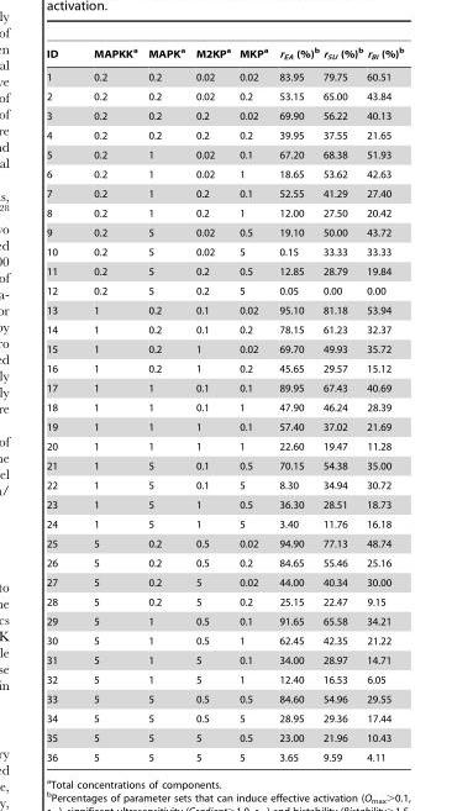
<table><thead><tr><td>ID</td><td>MAPKK<sup>a</sup></td><td>MAPK<sup>a</sup></td><td>M2KP<sup>a</sup></td><td>MKP<sup>a</sup></td><td>r<sub>EA</sub> (%)<sup>b</sup></td><td>r<sub>SU</sub> (%)<sup>b</sup></td><td>r<sub>BI</sub> (%)<sup>b</sup></td></tr></thead><tbody><tr><td>1</td><td>0.2</td><td>0.2</td><td>0.02</td><td>0.02</td><td>83.95</td><td>79.75</td><td>60.51</td></tr><tr><td>2</td><td>0.2</td><td>0.2</td><td>0.02</td><td>0.2</td><td>53.15</td><td>65.00</td><td>43.84</td></tr><tr><td>3</td><td>0.2</td><td>0.2</td><td>0.2</td><td>0.02</td><td>69.90</td><td>56.22</td><td>40.13</td></tr><tr><td>4</td><td>0.2</td><td>0.2</td><td>0.2</td><td>0.2</td><td>39.95</td><td>37.55</td><td>21.65</td></tr><tr><td>5</td><td>0.2</td><td>1</td><td>0.02</td><td>0.1</td><td>67.20</td><td>68.38</td><td>51.93</td></tr><tr><td>6</td><td>0.2</td><td>1</td><td>0.02</td><td>1</td><td>18.65</td><td>53.62</td><td>42.63</td></tr><tr><td>7</td><td>0.2</td><td>1</td><td>0.2</td><td>0.1</td><td>52.55</td><td>41.29</td><td>27.40</td></tr><tr><td>8</td><td>0.2</td><td>1</td><td>0.2</td><td>1</td><td>12.00</td><td>27.50</td><td>20.42</td></tr><tr><td>9</td><td>0.2</td><td>5</td><td>0.02</td><td>0.5</td><td>19.10</td><td>50.00</td><td>43.72</td></tr><tr><td>10</td><td>0.2</td><td>5</td><td>0.02</td><td>5</td><td>0.15</td><td>33.33</td><td>33.33</td></tr><tr><td>11</td><td>0.2</td><td>5</td><td>0.2</td><td>0.5</td><td>12.85</td><td>28.79</td><td>19.84</td></tr><tr><td>12</td><td>0.2</td><td>5</td><td>0.2</td><td>5</td><td>0.05</td><td>0.00</td><td>0.00</td></tr><tr><td>13</td><td>1</td><td>0.2</td><td>0.1</td><td>0.02</td><td>95.10</td><td>81.18</td><td>53.94</td></tr><tr><td>14</td><td>1</td><td>0.2</td><td>0.1</td><td>0.2</td><td>78.15</td><td>61.23</td><td>32.37</td></tr><tr><td>15</td><td>1</td><td>0.2</td><td>1</td><td>0.02</td><td>69.70</td><td>49.93</td><td>35.72</td></tr><tr><td>16</td><td>1</td><td>0.2</td><td>1</td><td>0.2</td><td>45.65</td><td>29.57</td><td>15.12</td></tr><tr><td>17</td><td>1</td><td>1</td><td>0.1</td><td>0.1</td><td>89.95</td><td>67.43</td><td>40.69</td></tr><tr><td>18</td><td>1</td><td>1</td><td>0.1</td><td>1</td><td>47.90</td><td>46.24</td><td>28.39</td></tr><tr><td>19</td><td>1</td><td>1</td><td>1</td><td>0.1</td><td>57.40</td><td>37.02</td><td>21.69</td></tr><tr><td>20</td><td>1</td><td>1</td><td>1</td><td>1</td><td>22.60</td><td>19.47</td><td>11.28</td></tr><tr><td>21</td><td>1</td><td>5</td><td>0.1</td><td>0.5</td><td>70.15</td><td>54.38</td><td>35.00</td></tr><tr><td>22</td><td>1</td><td>5</td><td>0.1</td><td>5</td><td>8.30</td><td>34.94</td><td>30.72</td></tr><tr><td>23</td><td>1</td><td>5</td><td>1</td><td>0.5</td><td>36.30</td><td>28.51</td><td>18.73</td></tr><tr><td>24</td><td>1</td><td>5</td><td>1</td><td>5</td><td>3.40</td><td>11.76</td><td>16.18</td></tr><tr><td>25</td><td>5</td><td>0.2</td><td>0.5</td><td>0.02</td><td>94.90</td><td>77.13</td><td>48.74</td></tr><tr><td>26</td><td>5</td><td>0.2</td><td>0.5</td><td>0.2</td><td>84.65</td><td>55.46</td><td>25.16</td></tr><tr><td>27</td><td>5</td><td>0.2</td><td>5</td><td>0.02</td><td>44.00</td><td>40.34</td><td>30.00</td></tr><tr><td>28</td><td>5</td><td>0.2</td><td>5</td><td>0.2</td><td>25.15</td><td>22.47</td><td>9.15</td></tr><tr><td>29</td><td>5</td><td>1</td><td>0.5</td><td>0.1</td><td>91.65</td><td>65.58</td><td>34.21</td></tr><tr><td>30</td><td>5</td><td>1</td><td>0.5</td><td>1</td><td>62.45</td><td>42.35</td><td>21.22</td></tr><tr><td>31</td><td>5</td><td>1</td><td>5</td><td>0.1</td><td>34.00</td><td>28.97</td><td>14.71</td></tr><tr><td>32</td><td>5</td><td>1</td><td>5</td><td>1</td><td>12.40</td><td>16.53</td><td>6.05</td></tr><tr><td>33</td><td>5</td><td>5</td><td>0.5</td><td>0.5</td><td>84.60</td><td>54.96</td><td>29.55</td></tr><tr><td>34</td><td>5</td><td>5</td><td>0.5</td><td>5</td><td>28.95</td><td>29.36</td><td>17.44</td></tr><tr><td>35</td><td>5</td><td>5</td><td>5</td><td>0.5</td><td>23.00</td><td>21.96</td><td>10.43</td></tr><tr><td>36</td><td>5</td><td>5</td><td>5</td><td>5</td><td>3.65</td><td>9.59</td><td>4.11</td></tr></tbody></table>